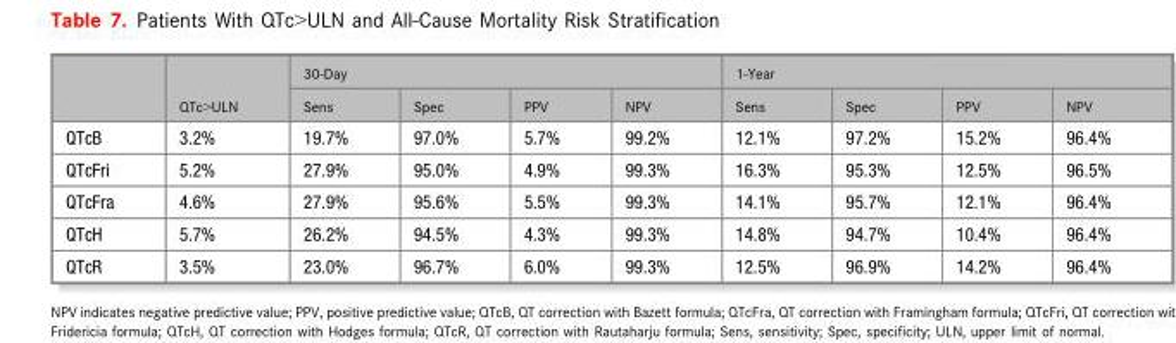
<table><thead><tr><td rowspan="2"></td><td rowspan="2">QTc&gt;ULN</td><td colspan="4">30-Day</td><td colspan="4">1-Year</td></tr><tr><td>Sens</td><td>Spec</td><td>PPV</td><td>NPV</td><td>Sens</td><td>Spec</td><td>PPV</td><td>NPV</td></tr></thead><tbody><tr><td>QTcB</td><td>3.2%</td><td>19.7%</td><td>97.0%</td><td>5.7%</td><td>99.2%</td><td>12.1%</td><td>97.2%</td><td>15.2%</td><td>96.4%</td></tr><tr><td>QTcFri</td><td>5.2%</td><td>27.9%</td><td>95.0%</td><td>4.9%</td><td>99.3%</td><td>16.3%</td><td>95.3%</td><td>12.5%</td><td>96.5%</td></tr><tr><td>QTcFra</td><td>4.6%</td><td>27.9%</td><td>95.6%</td><td>5.5%</td><td>99.3%</td><td>14.1%</td><td>95.7%</td><td>12.1%</td><td>96.4%</td></tr><tr><td>QTcH</td><td>5.7%</td><td>26.2%</td><td>94.5%</td><td>4.3%</td><td>99.3%</td><td>14.8%</td><td>94.7%</td><td>10.4%</td><td>96.4%</td></tr><tr><td>QTcR</td><td>3.5%</td><td>23.0%</td><td>96.7%</td><td>6.0%</td><td>99.3%</td><td>12.5%</td><td>96.9%</td><td>14.2%</td><td>96.4%</td></tr></tbody></table>